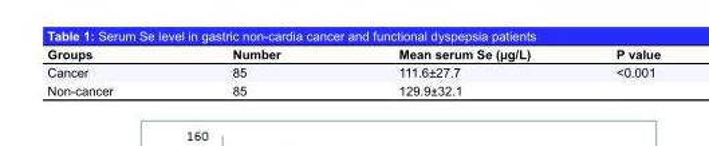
<table><thead><tr><td>Groups</td><td>Number</td><td>Mean serum Se (µg/L)</td><td>P value</td></tr></thead><tbody><tr><td>Cancer</td><td>85</td><td>111.6±27.7</td><td>&lt;0.001</td></tr><tr><td>Non-cancer</td><td>85</td><td>129.9±32.1</td><td></td></tr></tbody></table>